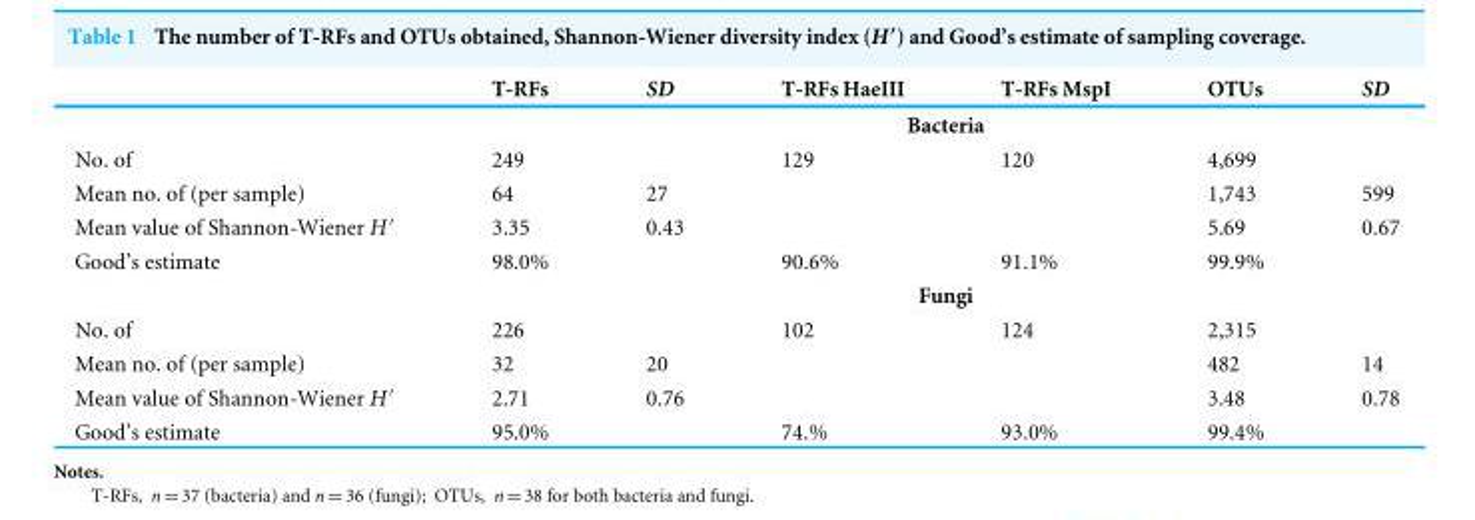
<table><thead><tr><td></td><td>T-RFs</td><td>SD</td><td>T-RFs HaeIII</td><td>T-RFs MspI</td><td>OTUs</td><td>SD</td></tr></thead><tbody><tr><td></td><td colspan="6">Bacteria</td></tr><tr><td>No. of</td><td>249</td><td></td><td>129</td><td>120</td><td>4,699</td><td></td></tr><tr><td>Mean no. of (per sample)</td><td>64</td><td>27</td><td></td><td></td><td>1,743</td><td>599</td></tr><tr><td>Mean value of Shannon-Wiener H ′</td><td>3.35</td><td>0.43</td><td></td><td></td><td>5.69</td><td>0.67</td></tr><tr><td rowspan="2">Good’s estimate</td><td>98.0%</td><td></td><td>90.6%</td><td>91.1%</td><td>99.9%</td><td></td></tr><tr><td colspan="6">Fungi</td></tr><tr><td>No. of</td><td>226</td><td></td><td>102</td><td>124</td><td>2,315</td><td></td></tr><tr><td>Mean no. of (per sample)</td><td>32</td><td>20</td><td></td><td></td><td>482</td><td>14</td></tr><tr><td>Mean value of Shannon-Wiener H ′</td><td>2.71</td><td>0.76</td><td></td><td></td><td>3.48</td><td>0.78</td></tr><tr><td>Good’s estimate</td><td>95.0%</td><td></td><td>74.%</td><td>93.0%</td><td>99.4%</td><td></td></tr></tbody></table>